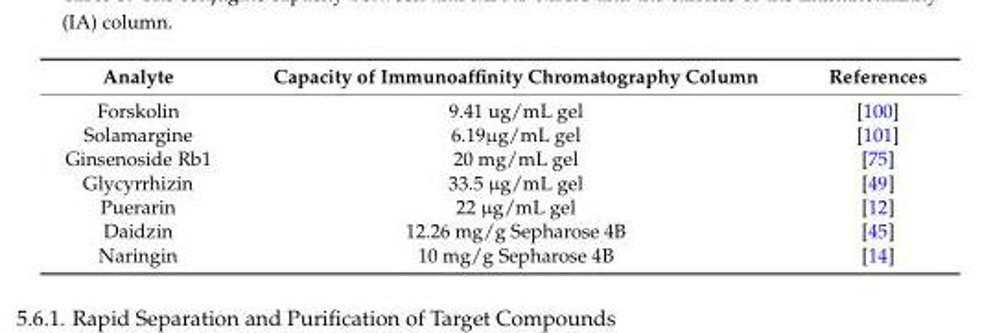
<table><thead><tr><td>Analyte</td><td>Capacity of Immunoaffinity Chromatography Column</td><td>References</td></tr></thead><tbody><tr><td>Forskolin</td><td>9.41 ug/mL gel</td><td>[100]</td></tr><tr><td>Solamargine</td><td>6.19µg/mL gel</td><td>[101]</td></tr><tr><td>Ginsenoside Rb1</td><td>20 mg/mL gel</td><td>[75]</td></tr><tr><td>Glycyrrhizin</td><td>33.5 µg/mL gel</td><td>[49]</td></tr><tr><td>Puerarin</td><td>22 µg/mL gel</td><td>[12]</td></tr><tr><td>Daidzin</td><td>12.26 mg/g Sepharose 4B</td><td>[45]</td></tr><tr><td>Naringin</td><td>10 mg/g Sepharose 4B</td><td>[14]</td></tr></tbody></table>